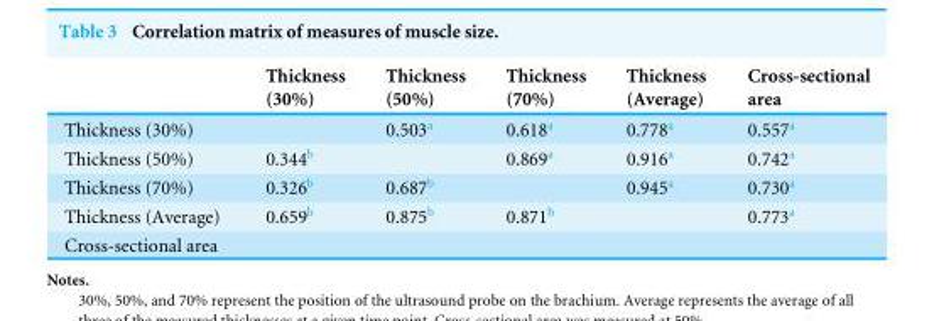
<table><thead><tr><td></td><td>Thickness (30%)</td><td>Thickness (50%)</td><td>Thickness (70%)</td><td>Thickness (Average)</td><td>Cross-sectional area</td></tr></thead><tbody><tr><td>Thickness (30%)</td><td></td><td>0.503<sup>a</sup></td><td>0.618<sup>a</sup></td><td>0.778<sup>a</sup></td><td>0.557<sup>a</sup></td></tr><tr><td>Thickness (50%)</td><td>0.344<sup>b</sup></td><td></td><td>0.869<sup>a</sup></td><td>0.916<sup>a</sup></td><td>0.742<sup>a</sup></td></tr><tr><td>Thickness (70%)</td><td>0.326<sup>b</sup></td><td>0.687<sup>b</sup></td><td></td><td>0.945<sup>a</sup></td><td>0.730<sup>a</sup></td></tr><tr><td>Thickness (Average)</td><td>0.659<sup>b</sup></td><td>0.875<sup>b</sup></td><td>0.871<sup>b</sup></td><td></td><td>0.773<sup>a</sup></td></tr><tr><td>Cross-sectional area</td><td></td><td></td><td></td><td></td><td></td></tr></tbody></table>